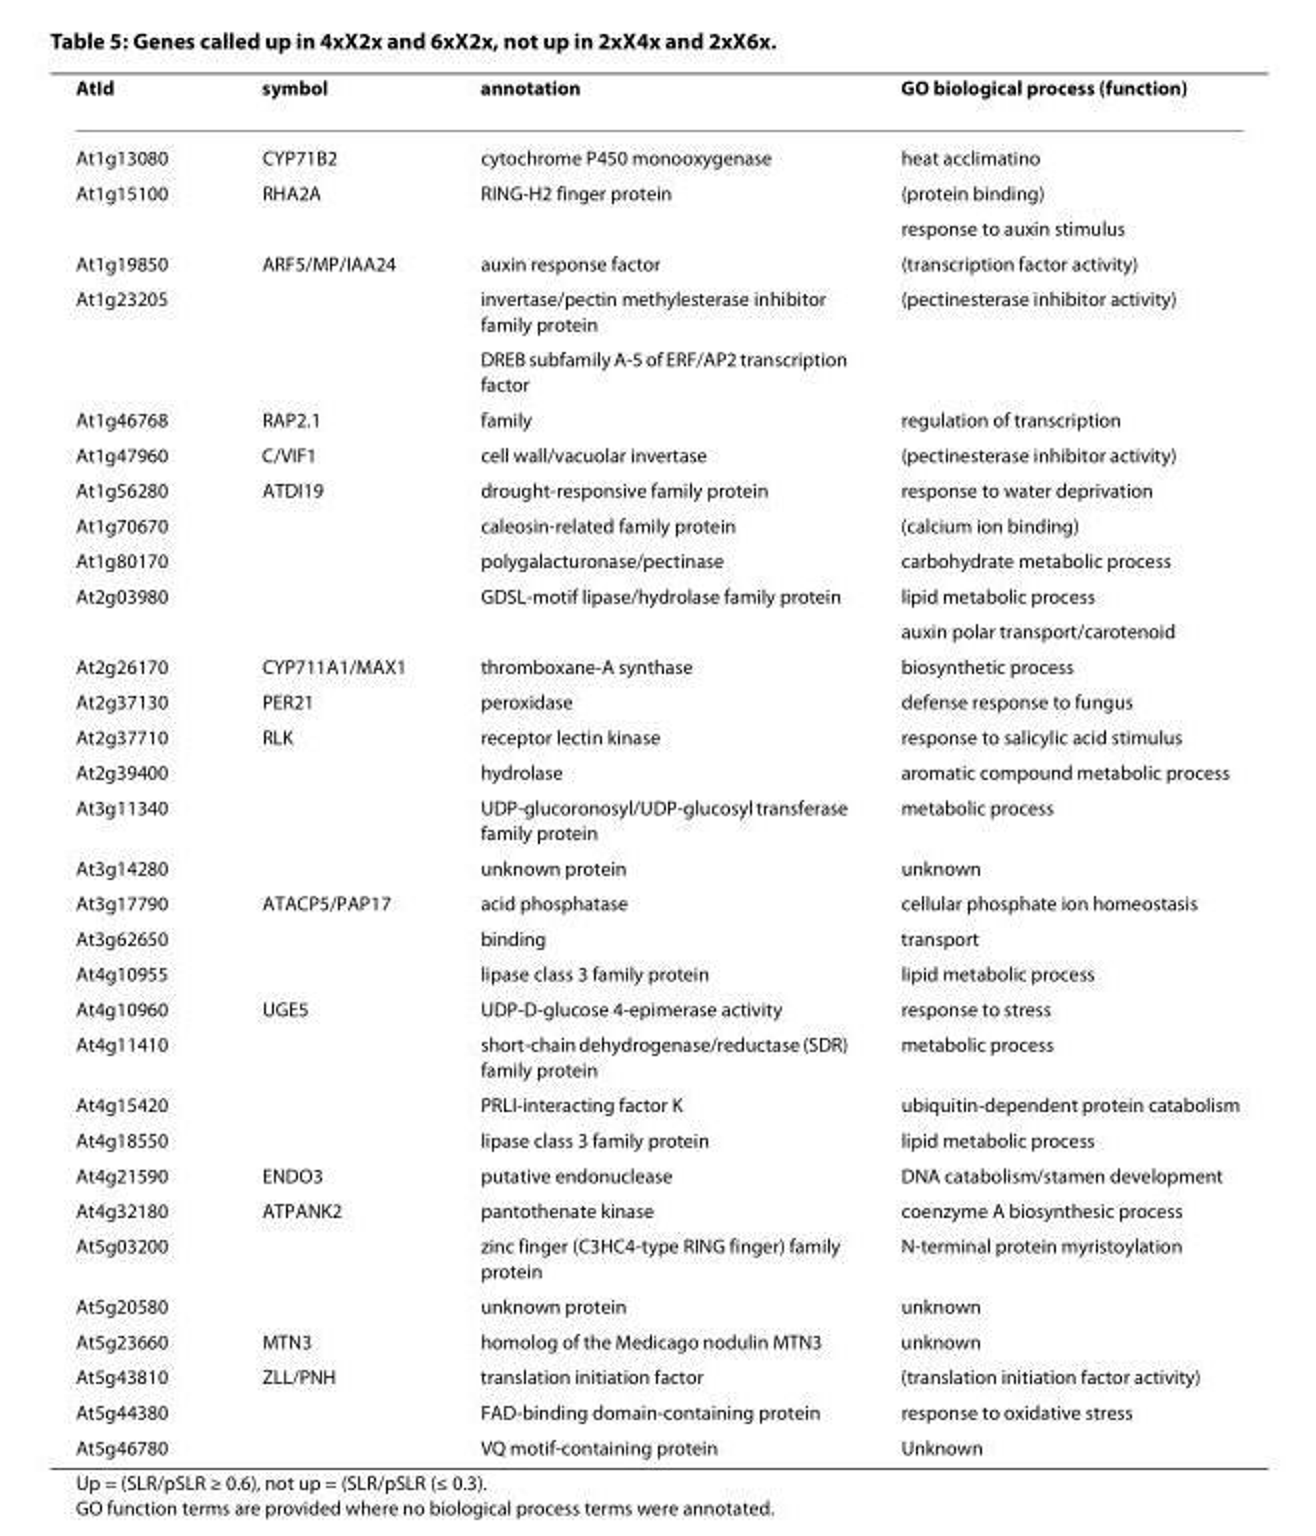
<table><thead><tr><td>AtId</td><td>symbol</td><td>annotation</td><td>GO biological process (function)</td></tr></thead><tbody><tr><td>At1g13080</td><td>CYP71B2</td><td>cytochrome P450 monooxygenase</td><td>heat acclimatino</td></tr><tr><td rowspan="2">At1g15100</td><td>RHA2A</td><td>RING-H2 finger protein</td><td>(protein binding)</td></tr><tr><td></td><td></td><td>response to auxin stimulus</td></tr><tr><td>At1g19850</td><td>ARF5/MP/IAA24</td><td>auxin response factor</td><td>(transcription factor activity)</td></tr><tr><td rowspan="2">At1g23205</td><td></td><td>invertase/pectin methylesterase inhibitor family protein</td><td>(pectinesterase inhibitor activity)</td></tr><tr><td></td><td>DREB subfamily A-5 of ERF/AP2 transcription factor</td><td></td></tr><tr><td>At1g46768</td><td>RAP2.1</td><td>family</td><td>regulation of transcription</td></tr><tr><td>At1g47960</td><td>C/VIF1</td><td>cell wall/vacuolar invertase</td><td>(pectinesterase inhibitor activity)</td></tr><tr><td>At1g56280</td><td>ATDI19</td><td>drought-responsive family protein</td><td>response to water deprivation</td></tr><tr><td>At1g70670</td><td></td><td>caleosin-related family protein</td><td>(calcium ion binding)</td></tr><tr><td>At1g80170</td><td></td><td>polygalacturonase/pectinase</td><td>carbohydrate metabolic process</td></tr><tr><td rowspan="2">At2g03980</td><td></td><td>GDSL-motif lipase/hydrolase family protein</td><td>lipid metabolic process</td></tr><tr><td></td><td></td><td>auxin polar transport/carotenoid</td></tr><tr><td>At2g26170</td><td>CYP711A1/MAX1</td><td>thromboxane-A synthase</td><td>biosynthetic process</td></tr><tr><td>At2g37130</td><td>PER21</td><td>peroxidase</td><td>defense response to fungus</td></tr><tr><td>At2g37710</td><td>RLK</td><td>receptor lectin kinase</td><td>response to salicylic acid stimulus</td></tr><tr><td>At2g39400</td><td></td><td>hydrolase</td><td>aromatic compound metabolic process</td></tr><tr><td>At3g11340</td><td></td><td>UDP-glucoronosyl/UDP-glucosyl transferase family protein</td><td>metabolic process</td></tr><tr><td>At3g14280</td><td></td><td>unknown protein</td><td>unknown</td></tr><tr><td>At3g17790</td><td>ATACP5/PAP17</td><td>acid phosphatase</td><td>cellular phosphate ion homeostasis</td></tr><tr><td>At3g62650</td><td></td><td>binding</td><td>transport</td></tr><tr><td>At4g10955</td><td></td><td>lipase class 3 family protein</td><td>lipid metabolic process</td></tr><tr><td>At4g10960</td><td>UGE5</td><td>UDP-D-glucose 4-epimerase activity</td><td>response to stress</td></tr><tr><td>At4g11410</td><td></td><td>short-chain dehydrogenase/reductase (SDR) family protein</td><td>metabolic process</td></tr><tr><td>At4g15420</td><td></td><td>PRLI-interacting factor K</td><td>ubiquitin-dependent protein catabolism</td></tr><tr><td>At4g18550</td><td></td><td>lipase class 3 family protein</td><td>lipid metabolic process</td></tr><tr><td>At4g21590</td><td>ENDO3</td><td>putative endonuclease</td><td>DNA catabolism/stamen development</td></tr><tr><td>At4g32180</td><td>ATPANK2</td><td>pantothenate kinase</td><td>coenzyme A biosynthesic process</td></tr><tr><td>At5g03200</td><td></td><td>zinc finger (C3HC4-type RING finger) family protein</td><td>N-terminal protein myristoylation</td></tr><tr><td>At5g20580</td><td></td><td>unknown protein</td><td>unknown</td></tr><tr><td>At5g23660</td><td>MTN3</td><td>homolog of the Medicago nodulin MTN3</td><td>unknown</td></tr><tr><td>At5g43810</td><td>ZLL/PNH</td><td>translation initiation factor</td><td>(translation initiation factor activity)</td></tr><tr><td>At5g44380</td><td></td><td>FAD-binding domain-containing protein</td><td>response to oxidative stress</td></tr><tr><td>At5g46780</td><td></td><td>VQ motif-containing protein</td><td>Unknown</td></tr></tbody></table>